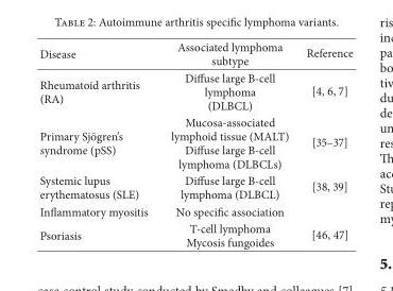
<table><thead><tr><td>Disease</td><td>Associated lymphoma subtype</td><td>Reference</td></tr></thead><tbody><tr><td>Rheumatoid arthritis (RA)</td><td>Diffuse large B-cell lymphoma (DLBCL)</td><td>[4, 6, 7]</td></tr><tr><td>Primary Sj¨ogren’s syndrome (pSS)</td><td>Mucosa-associated lymphoid tissue (MALT) Diffuse large B-cell lymphoma (DLBCLs)</td><td>[35–37]</td></tr><tr><td>Systemic lupus erythematosus (SLE)</td><td>Diffuse large B-cell lymphoma (DLBCL)</td><td>[38, 39]</td></tr><tr><td>Inflammatory myositis</td><td>No specific association</td><td></td></tr><tr><td>Psoriasis</td><td>T-cell lymphoma Mycosis fungoides</td><td>[46, 47]</td></tr></tbody></table>